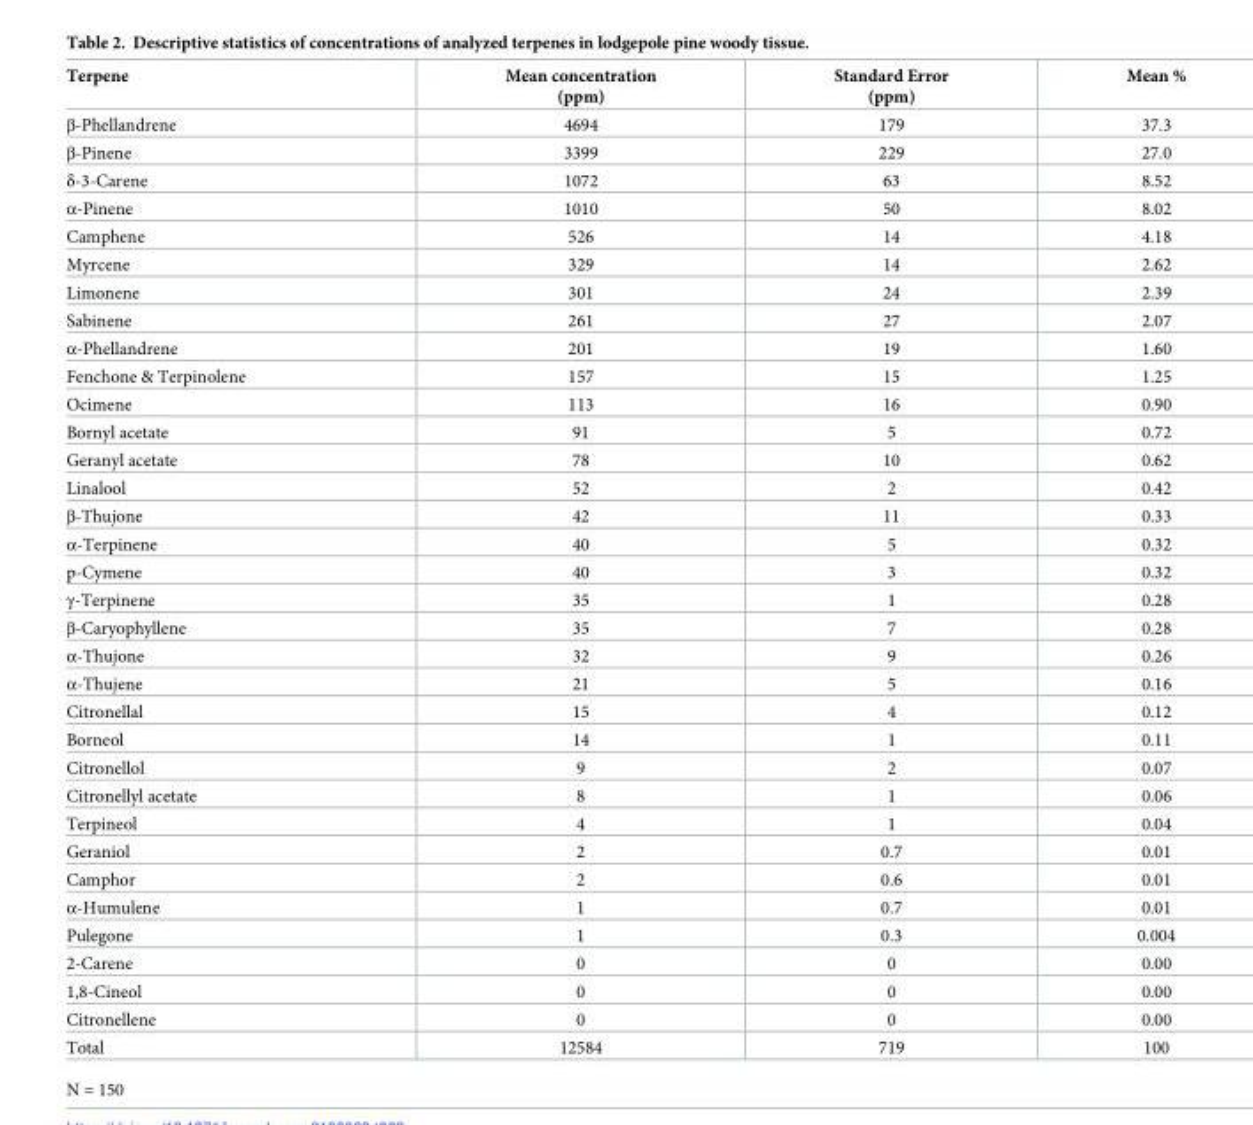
<table><thead><tr><td>Terpene</td><td>Mean concentration (ppm)</td><td>Standard Error (ppm)</td><td>Mean %</td></tr></thead><tbody><tr><td>β-Phellandrene</td><td>4694</td><td>179</td><td>37.3</td></tr><tr><td>β-Pinene</td><td>3399</td><td>229</td><td>27.0</td></tr><tr><td>δ-3-Carene</td><td>1072</td><td>63</td><td>8.52</td></tr><tr><td>α-Pinene</td><td>1010</td><td>50</td><td>8.02</td></tr><tr><td>Camphene</td><td>526</td><td>14</td><td>4.18</td></tr><tr><td>Myrcene</td><td>329</td><td>14</td><td>2.62</td></tr><tr><td>Limonene</td><td>301</td><td>24</td><td>2.39</td></tr><tr><td>Sabinene</td><td>261</td><td>27</td><td>2.07</td></tr><tr><td>α-Phellandrene</td><td>201</td><td>19</td><td>1.60</td></tr><tr><td>Fenchone &amp; Terpinolene</td><td>157</td><td>15</td><td>1.25</td></tr><tr><td>Ocimene</td><td>113</td><td>16</td><td>0.90</td></tr><tr><td>Bornyl acetate</td><td>91</td><td>5</td><td>0.72</td></tr><tr><td>Geranyl acetate</td><td>78</td><td>10</td><td>0.62</td></tr><tr><td>Linalool</td><td>52</td><td>2</td><td>0.42</td></tr><tr><td>β-Thujone</td><td>42</td><td>11</td><td>0.33</td></tr><tr><td>α-Terpinene</td><td>40</td><td>5</td><td>0.32</td></tr><tr><td>p-Cymene</td><td>40</td><td>3</td><td>0.32</td></tr><tr><td>γ-Terpinene</td><td>35</td><td>1</td><td>0.28</td></tr><tr><td>β-Caryophyllene</td><td>35</td><td>7</td><td>0.28</td></tr><tr><td>α-Thujone</td><td>32</td><td>9</td><td>0.26</td></tr><tr><td>α-Thujene</td><td>21</td><td>5</td><td>0.16</td></tr><tr><td>Citronellal</td><td>15</td><td>4</td><td>0.12</td></tr><tr><td>Borneol</td><td>14</td><td>1</td><td>0.11</td></tr><tr><td>Citronellol</td><td>9</td><td>2</td><td>0.07</td></tr><tr><td>Citronellyl acetate</td><td>8</td><td>1</td><td>0.06</td></tr><tr><td>Terpineol</td><td>4</td><td>1</td><td>0.04</td></tr><tr><td>Geraniol</td><td>2</td><td>0.7</td><td>0.01</td></tr><tr><td>Camphor</td><td>2</td><td>0.6</td><td>0.01</td></tr><tr><td>α-Humulene</td><td>1</td><td>0.7</td><td>0.01</td></tr><tr><td>Pulegone</td><td>1</td><td>0.3</td><td>0.004</td></tr><tr><td>2-Carene</td><td>0</td><td>0</td><td>0.00</td></tr><tr><td>1,8-Cineol</td><td>0</td><td>0</td><td>0.00</td></tr><tr><td>Citronellene</td><td>0</td><td>0</td><td>0.00</td></tr><tr><td>Total</td><td>12584</td><td>719</td><td>100</td></tr></tbody></table>